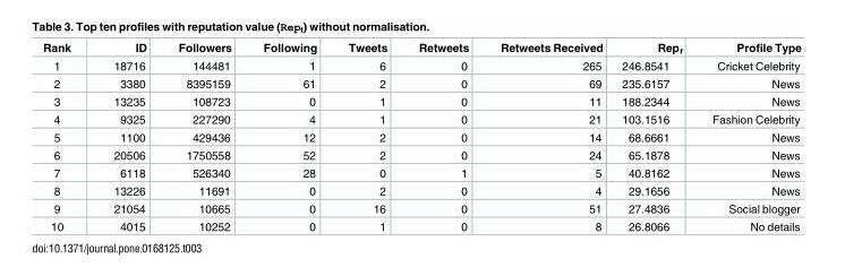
<table><thead><tr><td>Rank</td><td>ID</td><td>Followers</td><td>Following</td><td>Tweets</td><td>Retweets</td><td>Retweets Received</td><td>Rep<sub>t</sub></td><td>Profile Type</td></tr></thead><tbody><tr><td>1</td><td>18716</td><td>144481</td><td>1</td><td>6</td><td>0</td><td>265</td><td>246.8541</td><td>Cricket Celebrity</td></tr><tr><td>2</td><td>3380</td><td>8395159</td><td>61</td><td>2</td><td>0</td><td>69</td><td>235.6157</td><td>News</td></tr><tr><td>3</td><td>13235</td><td>108723</td><td>0</td><td>1</td><td>0</td><td>11</td><td>188.2344</td><td>News</td></tr><tr><td>4</td><td>9325</td><td>227290</td><td>4</td><td>1</td><td>0</td><td>21</td><td>103.1516</td><td>Fashion Celebrity</td></tr><tr><td>5</td><td>1100</td><td>429436</td><td>12</td><td>2</td><td>0</td><td>14</td><td>68.6661</td><td>News</td></tr><tr><td>6</td><td>20506</td><td>1750558</td><td>52</td><td>2</td><td>0</td><td>24</td><td>65.1878</td><td>News</td></tr><tr><td>7</td><td>6118</td><td>526340</td><td>28</td><td>0</td><td>1</td><td>5</td><td>40.8162</td><td>News</td></tr><tr><td>8</td><td>13226</td><td>11691</td><td>0</td><td>2</td><td>0</td><td>4</td><td>29.1656</td><td>News</td></tr><tr><td>9</td><td>21054</td><td>10665</td><td>0</td><td>16</td><td>0</td><td>51</td><td>27.4836</td><td>Social blogger</td></tr><tr><td>10</td><td>4015</td><td>10252</td><td>0</td><td>1</td><td>0</td><td>8</td><td>26.8066</td><td>No details</td></tr></tbody></table>